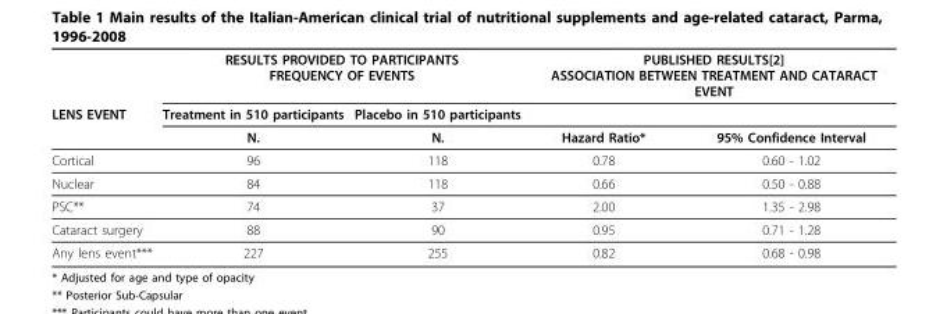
<table><thead><tr><td rowspan="3">LENS EVENT</td><td colspan="2">RESULTS PROVIDED TO PARTICIPANTS FREQUENCY OF EVENTS</td><td colspan="2">PUBLISHED RESULTS[2] ASSOCIATION BETWEEN TREATMENT AND CATARACT EVENT</td></tr><tr><td rowspan="2">Treatment in 510 participants N.</td><td rowspan="2">Placebo in 510 participants N.</td><td rowspan="2">Hazard Ratio*</td><td rowspan="2">95% Confidence Interval</td></tr><tr></tr></thead><tbody><tr><td>Cortical</td><td>96</td><td>118</td><td>0.78</td><td>0.60 - 1.02</td></tr><tr><td>Nuclear</td><td>84</td><td>118</td><td>0.66</td><td>0.50 - 0.88</td></tr><tr><td>PSC**</td><td>74</td><td>37</td><td>2.00</td><td>1.35 - 2.98</td></tr><tr><td>Cataract surgery</td><td>88</td><td>90</td><td>0.95</td><td>0.71 - 1.28</td></tr><tr><td>Any lens event***</td><td>227</td><td>255</td><td>0.82</td><td>0.68 - 0.98</td></tr></tbody></table>